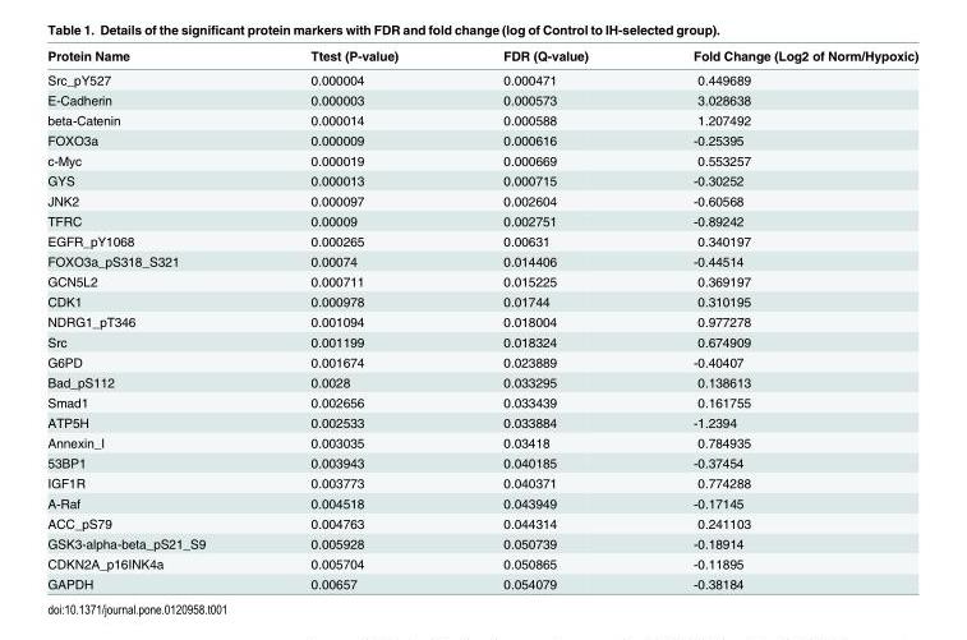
<table><thead><tr><td>Protein Name</td><td>Ttest (P-value)</td><td>FDR (Q-value)</td><td>Fold Change (Log2 of Norm/Hypoxic)</td></tr></thead><tbody><tr><td>Src_pY527</td><td>0.000004</td><td>0.000471</td><td>0.449689</td></tr><tr><td>E-Cadherin</td><td>0.000003</td><td>0.000573</td><td>3.028638</td></tr><tr><td>beta-Catenin</td><td>0.000014</td><td>0.000588</td><td>1.207492</td></tr><tr><td>FOXO3a</td><td>0.000009</td><td>0.000616</td><td>-0.25395</td></tr><tr><td>c-Myc</td><td>0.000019</td><td>0.000669</td><td>0.553257</td></tr><tr><td>GYS</td><td>0.000013</td><td>0.000715</td><td>-0.30252</td></tr><tr><td>JNK2</td><td>0.000097</td><td>0.002604</td><td>-0.60568</td></tr><tr><td>TFRC</td><td>0.00009</td><td>0.002751</td><td>-0.89242</td></tr><tr><td>EGFR_pY1068</td><td>0.000265</td><td>0.00631</td><td>0.340197</td></tr><tr><td>FOXO3a_pS318_S321</td><td>0.00074</td><td>0.014406</td><td>-0.44514</td></tr><tr><td>GCN5L2</td><td>0.000711</td><td>0.015225</td><td>0.369197</td></tr><tr><td>CDK1</td><td>0.000978</td><td>0.01744</td><td>0.310195</td></tr><tr><td>NDRG1_pT346</td><td>0.001094</td><td>0.018004</td><td>0.977278</td></tr><tr><td>Src</td><td>0.001199</td><td>0.018324</td><td>0.674909</td></tr><tr><td>G6PD</td><td>0.001674</td><td>0.023889</td><td>-0.40407</td></tr><tr><td>Bad_pS112</td><td>0.0028</td><td>0.033295</td><td>0.138613</td></tr><tr><td>Smad1</td><td>0.002656</td><td>0.033439</td><td>0.161755</td></tr><tr><td>ATP5H</td><td>0.002533</td><td>0.033884</td><td>-1.2394</td></tr><tr><td>Annexin_I</td><td>0.003035</td><td>0.03418</td><td>0.784935</td></tr><tr><td>53BP1</td><td>0.003943</td><td>0.040185</td><td>-0.37454</td></tr><tr><td>IGF1R</td><td>0.003773</td><td>0.040371</td><td>0.774288</td></tr><tr><td>A-Raf</td><td>0.004518</td><td>0.043949</td><td>-0.17145</td></tr><tr><td>ACC_pS79</td><td>0.004763</td><td>0.044314</td><td>0.241103</td></tr><tr><td>GSK3-alpha-beta_pS21_S9</td><td>0.005928</td><td>0.050739</td><td>-0.18914</td></tr><tr><td>CDKN2A_p16INK4a</td><td>0.005704</td><td>0.050865</td><td>-0.11895</td></tr><tr><td>GAPDH</td><td>0.00657</td><td>0.054079</td><td>-0.38184</td></tr></tbody></table>